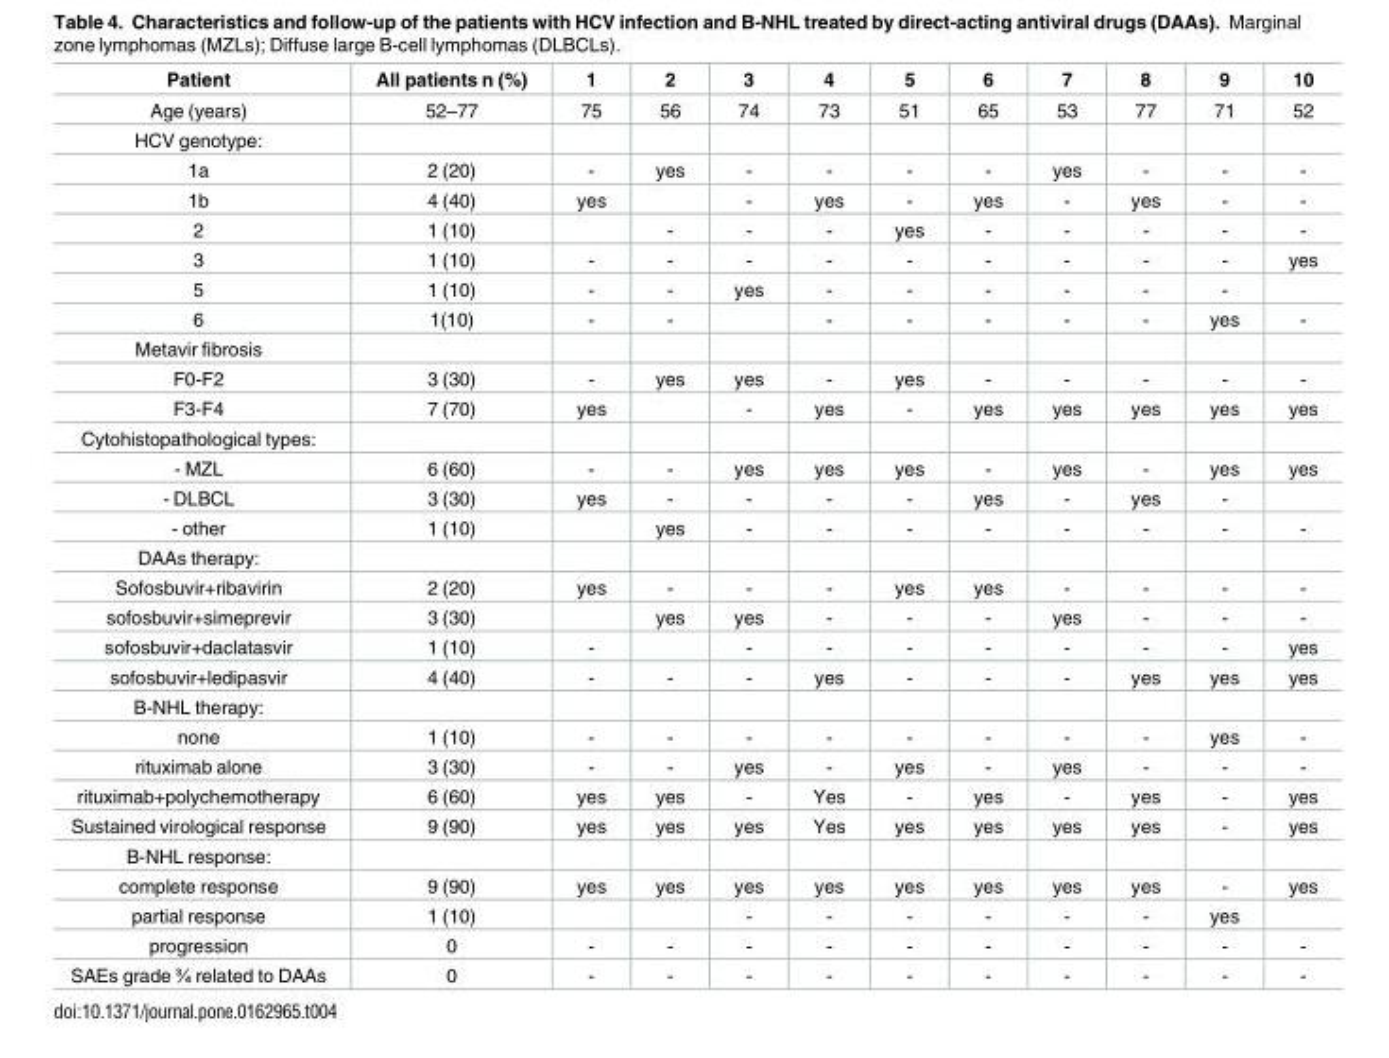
<table><thead><tr><td>Patient</td><td>All patients n (%)</td><td>1</td><td>2</td><td>3</td><td>4</td><td>5</td><td>6</td><td>7</td><td>8</td><td>9</td><td>10</td></tr></thead><tbody><tr><td>Age (years)</td><td>52–77</td><td>75</td><td>56</td><td>74</td><td>73</td><td>51</td><td>65</td><td>53</td><td>77</td><td>71</td><td>52</td></tr><tr><td colspan="12">HCV genotype:</td></tr><tr><td>1a</td><td>2 (20)</td><td>-</td><td>yes</td><td>-</td><td>-</td><td>-</td><td>-</td><td>yes</td><td>-</td><td>-</td><td>-</td></tr><tr><td>1b</td><td>4 (40)</td><td>yes</td><td></td><td>-</td><td>yes</td><td>-</td><td>yes</td><td>-</td><td>yes</td><td>-</td><td>-</td></tr><tr><td>2</td><td>1 (10)</td><td></td><td>-</td><td>-</td><td>-</td><td>yes</td><td>-</td><td>-</td><td>-</td><td>-</td><td>-</td></tr><tr><td>3</td><td>1 (10)</td><td>-</td><td>-</td><td>-</td><td>-</td><td>-</td><td>-</td><td>-</td><td>-</td><td>-</td><td>yes</td></tr><tr><td>5</td><td>1 (10)</td><td>-</td><td>-</td><td>yes</td><td>-</td><td>-</td><td>-</td><td>-</td><td>-</td><td>-</td><td></td></tr><tr><td>6</td><td>1(10)</td><td>-</td><td>-</td><td></td><td>-</td><td>-</td><td>-</td><td>-</td><td>-</td><td>yes</td><td>-</td></tr><tr><td colspan="12">Metavir fibrosis</td></tr><tr><td>F0-F2</td><td>3 (30)</td><td>-</td><td>yes</td><td>yes</td><td>-</td><td>yes</td><td>-</td><td>-</td><td>-</td><td>-</td><td>-</td></tr><tr><td>F3-F4</td><td>7 (70)</td><td>yes</td><td></td><td>-</td><td>yes</td><td>-</td><td>yes</td><td>yes</td><td>yes</td><td>yes</td><td>yes</td></tr><tr><td colspan="12">Cytohistopathological types:</td></tr><tr><td>- MZL</td><td>6 (60)</td><td>-</td><td>-</td><td>yes</td><td>yes</td><td>yes</td><td>-</td><td>yes</td><td>-</td><td>yes</td><td>yes</td></tr><tr><td>- DLBCL</td><td>3 (30)</td><td>yes</td><td>-</td><td>-</td><td>-</td><td>-</td><td>yes</td><td>-</td><td>yes</td><td>-</td><td></td></tr><tr><td>- other</td><td>1 (10)</td><td></td><td>yes</td><td>-</td><td>-</td><td>-</td><td>-</td><td>-</td><td>-</td><td>-</td><td>-</td></tr><tr><td colspan="12">DAAs therapy:</td></tr><tr><td>Sofosbuvir+ribavirin</td><td>2 (20)</td><td>yes</td><td>-</td><td>-</td><td>-</td><td>yes</td><td>yes</td><td>-</td><td>-</td><td>-</td><td>-</td></tr><tr><td>sofosbuvir+simeprevir</td><td>3 (30)</td><td></td><td>yes</td><td>yes</td><td>-</td><td>-</td><td>-</td><td>yes</td><td>-</td><td>-</td><td>-</td></tr><tr><td>sofosbuvir+daclatasvir</td><td>1 (10)</td><td>-</td><td></td><td>-</td><td>-</td><td>-</td><td>-</td><td>-</td><td>-</td><td>-</td><td>yes</td></tr><tr><td>sofosbuvir+ledipasvir</td><td>4 (40)</td><td>-</td><td>-</td><td>-</td><td>yes</td><td>-</td><td>-</td><td>-</td><td>yes</td><td>yes</td><td>yes</td></tr><tr><td colspan="12">B-NHL therapy:</td></tr><tr><td>none</td><td>1 (10)</td><td>-</td><td>-</td><td>-</td><td>-</td><td>-</td><td>-</td><td>-</td><td>-</td><td>yes</td><td>-</td></tr><tr><td>rituximab alone</td><td>3 (30)</td><td>-</td><td>-</td><td>yes</td><td>-</td><td>yes</td><td>-</td><td>yes</td><td>-</td><td>-</td><td>-</td></tr><tr><td>rituximab+polychemotherapy</td><td>6 (60)</td><td>yes</td><td>yes</td><td>-</td><td>Yes</td><td>-</td><td>yes</td><td>-</td><td>yes</td><td>-</td><td>yes</td></tr><tr><td>Sustained virological response</td><td>9 (90)</td><td>yes</td><td>yes</td><td>yes</td><td>Yes</td><td>yes</td><td>yes</td><td>yes</td><td>yes</td><td>-</td><td>yes</td></tr><tr><td colspan="12">B-NHL response:</td></tr><tr><td>complete response</td><td>9 (90)</td><td>yes</td><td>yes</td><td>yes</td><td>yes</td><td>yes</td><td>yes</td><td>yes</td><td>yes</td><td>-</td><td>yes</td></tr><tr><td>partial response</td><td>1 (10)</td><td></td><td></td><td>-</td><td>-</td><td>-</td><td>-</td><td>-</td><td>-</td><td>yes</td><td></td></tr><tr><td>progression</td><td>0</td><td>-</td><td>-</td><td>-</td><td>-</td><td>-</td><td>-</td><td>-</td><td>-</td><td>-</td><td>-</td></tr><tr><td>SAEs grade ¾ related to DAAs</td><td>0</td><td>-</td><td>-</td><td>-</td><td>-</td><td>-</td><td>-</td><td>-</td><td>-</td><td>-</td><td>-</td></tr></tbody></table>